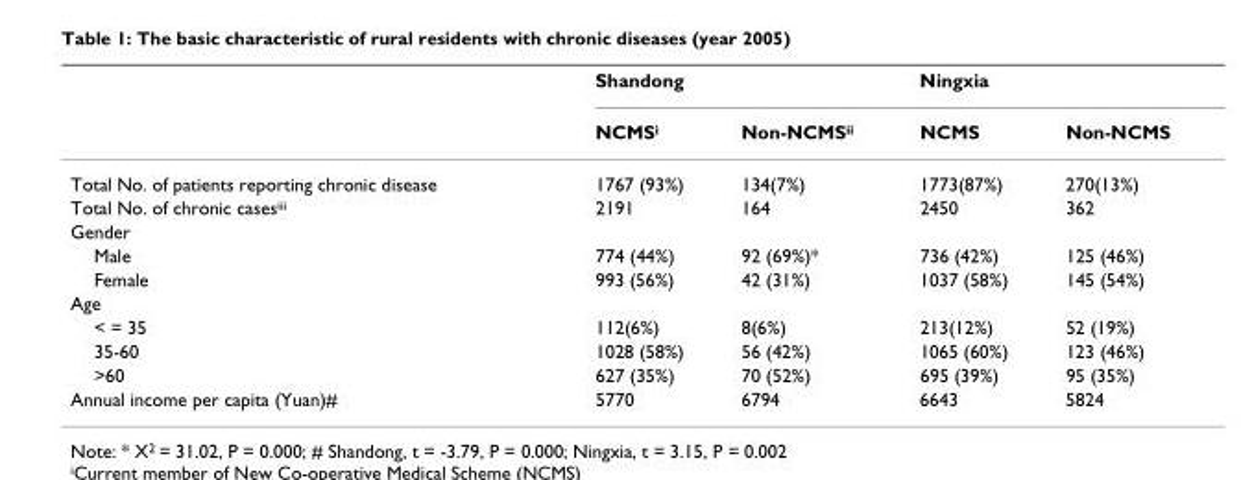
<table><thead><tr><td rowspan="2"></td><td colspan="2">Shandong</td><td colspan="2">Ningxia</td></tr><tr><td>NCMS<sup>i</sup></td><td>Non-NCMS<sup>ii</sup></td><td>NCMS</td><td>Non-NCMS</td></tr></thead><tbody><tr><td>Total No. of patients reporting chronic disease</td><td>1767 (93%)</td><td>134(7%)</td><td>1773(87%)</td><td>270(13%)</td></tr><tr><td>Total No. of chronic cases<sup>iii</sup></td><td>2191</td><td>164</td><td>2450</td><td>362</td></tr><tr><td colspan="5">Gender</td></tr><tr><td>Male</td><td>774 (44%)</td><td>92 (69%)*</td><td>736 (42%)</td><td>125 (46%)</td></tr><tr><td>Female</td><td>993 (56%)</td><td>42 (31%)</td><td>1037 (58%)</td><td>145 (54%)</td></tr><tr><td colspan="5">Age</td></tr><tr><td>&lt; = 35</td><td>112(6%)</td><td>8(6%)</td><td>213(12%)</td><td>52 (19%)</td></tr><tr><td>35-60</td><td>1028 (58%)</td><td>56 (42%)</td><td>1065 (60%)</td><td>123 (46%)</td></tr><tr><td>&gt;60</td><td>627 (35%)</td><td>70 (52%)</td><td>695 (39%)</td><td>95 (35%)</td></tr><tr><td>Annual income per capita (Yuan)#</td><td>5770</td><td>6794</td><td>6643</td><td>5824</td></tr></tbody></table>